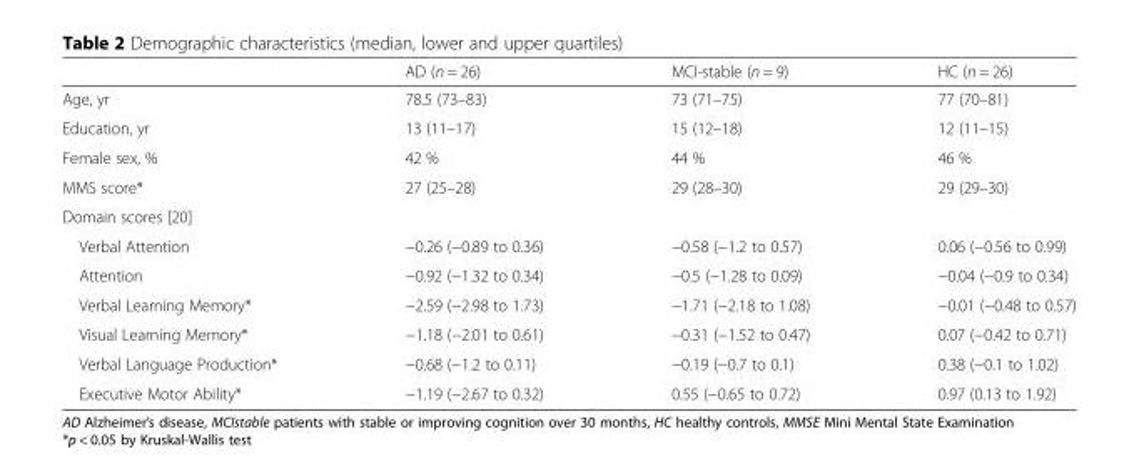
<table><thead><tr><td></td><td>AD (n = 26)</td><td>MCI-stable (n = 9)</td><td>HC (n = 26)</td></tr></thead><tbody><tr><td>Age, yr</td><td>78.5 (73–83)</td><td>73 (71–75)</td><td>77 (70–81)</td></tr><tr><td>Education, yr</td><td>13 (11–17)</td><td>15 (12–18)</td><td>12 (11–15)</td></tr><tr><td>Female sex, %</td><td>42 %</td><td>44 %</td><td>46 %</td></tr><tr><td>MMS score*</td><td>27 (25–28)</td><td>29 (28–30)</td><td>29 (29–30)</td></tr><tr><td colspan="4">Domain scores [20]</td></tr><tr><td>Verbal Attention</td><td>−0.26 (−0.89 to 0.36)</td><td>−0.58 (−1.2 to 0.57)</td><td>0.06 (−0.56 to 0.99)</td></tr><tr><td>Attention</td><td>−0.92 (−1.32 to 0.34)</td><td>−0.5 (−1.28 to 0.09)</td><td>−0.04 (−0.9 to 0.34)</td></tr><tr><td>Verbal Learning Memory*</td><td>−2.59 (−2.98 to 1.73)</td><td>−1.71 (−2.18 to 1.08)</td><td>−0.01 (−0.48 to 0.57)</td></tr><tr><td>Visual Learning Memory*</td><td>−1.18 (−2.01 to 0.61)</td><td>−0.31 (−1.52 to 0.47)</td><td>0.07 (−0.42 to 0.71)</td></tr><tr><td>Verbal Language Production*</td><td>−0.68 (−1.2 to 0.11)</td><td>−0.19 (−0.7 to 0.1)</td><td>0.38 (−0.1 to 1.02)</td></tr><tr><td>Executive Motor Ability*</td><td>−1.19 (−2.67 to 0.32)</td><td>0.55 (−0.65 to 0.72)</td><td>0.97 (0.13 to 1.92)</td></tr></tbody></table>